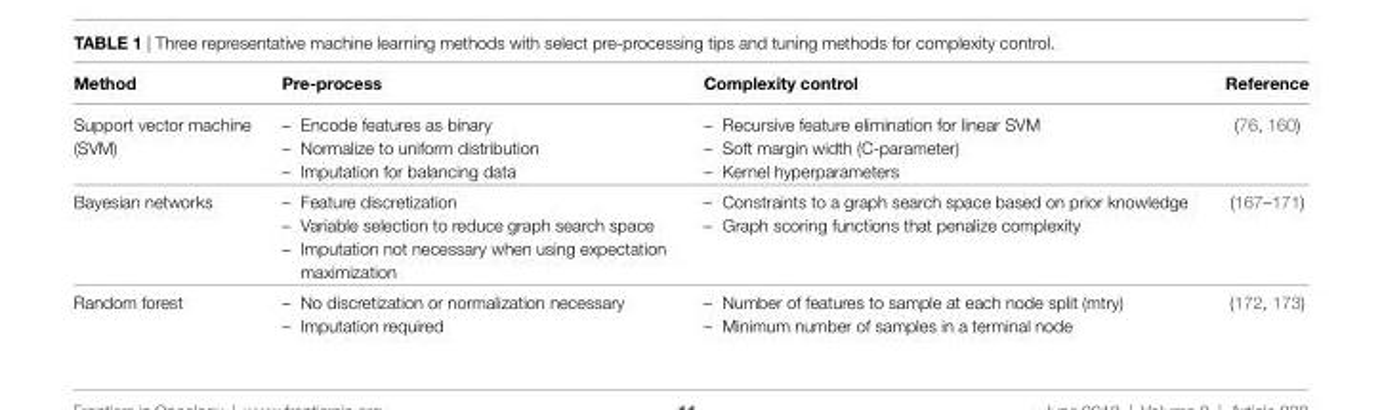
<table><thead><tr><td>Method</td><td>Pre-process</td><td>Complexity control</td><td>Reference</td></tr></thead><tbody><tr><td>Support vector machine (SVM)</td><td>– Encode features as binary – Normalize to uniform distribution – Imputation for balancing data</td><td>– Recursive feature elimination for linear SVM – Soft margin width (C-parameter) – Kernel hyperparameters</td><td>(76, 160)</td></tr><tr><td>Bayesian networks</td><td>– Feature discretization – Variable selection to reduce graph search space – Imputation not necessary when using expectation maximization</td><td>– Constraints to a graph search space based on prior knowledge – Graph scoring functions that penalize complexity</td><td>(167–171)</td></tr><tr><td>Random forest</td><td>– No discretization or normalization necessary – Imputation required</td><td>– Number of features to sample at each node split (mtry) – Minimum number of samples in a terminal node</td><td>(172, 173)</td></tr></tbody></table>